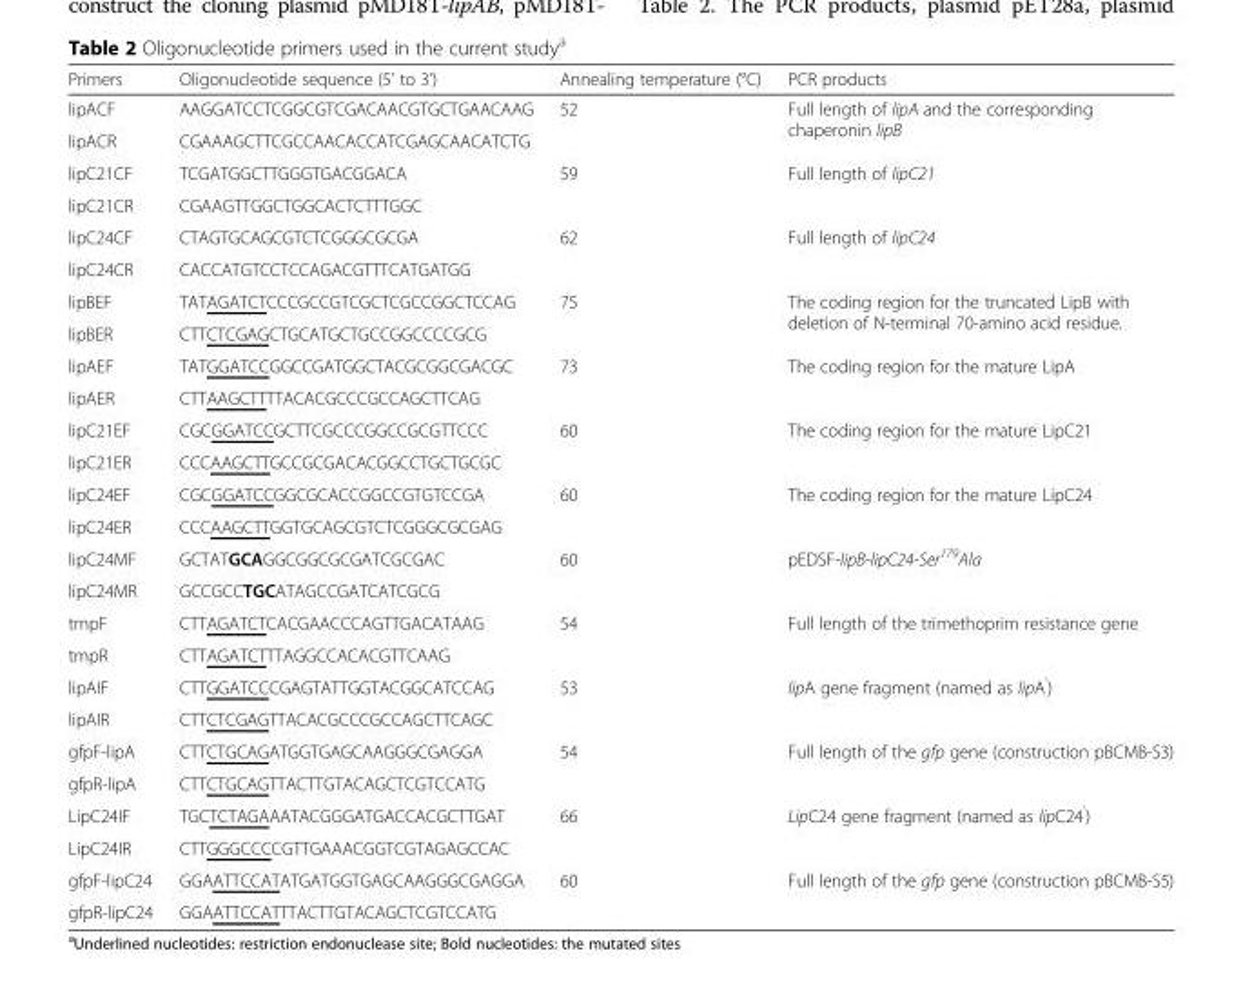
<table><thead><tr><td>Primers</td><td>Oligonucleotide sequence (5’ to 3’)</td><td>Annealing temperature (°C)</td><td>PCR products</td></tr></thead><tbody><tr><td>lipACF</td><td>AAGGATCCTCGGCGTCGACAACGTGCTGAACAAG</td><td rowspan="2">52</td><td rowspan="2">Full length of lipA and the corresponding chaperonin lipB</td></tr><tr><td>lipACR</td><td>CGAAAGCTTCGCCAACACCATCGAGCAACATCTG</td></tr><tr><td>lipC21CF</td><td>TCGATGGCTTGGGTGACGGACA</td><td rowspan="2">59</td><td rowspan="2">Full length of lipC21</td></tr><tr><td>lipC21CR</td><td>CGAAGTTGGCTGGCACTCTTTGGC</td></tr><tr><td>lipC24CF</td><td>CTAGTGCAGCGTCTCGGGCGCGA</td><td rowspan="2">62</td><td rowspan="2">Full length of lipC24</td></tr><tr><td>lipC24CR</td><td>CACCATGTCCTCCAGACGTTTCATGATGG</td></tr><tr><td>lipBEF</td><td>TATAGATCTCCCGCCGTCGCTCGCCGGCTCCAG</td><td rowspan="2">75</td><td rowspan="2">The coding region for the truncated LipB with deletion of N-terminal 70-amino acid residue.</td></tr><tr><td>lipBER</td><td>CTTCTCGAGCTGCATGCTGCCGGCCCCGCG</td></tr><tr><td>lipAEF</td><td>TATGGATCCGGCCGATGGCTACGCGGCGACGC</td><td rowspan="2">73</td><td rowspan="2">The coding region for the mature LipA</td></tr><tr><td>lipAER</td><td>CTTAAGCTTTTACACGCCCGCCAGCTTCAG</td></tr><tr><td>lipC21EF</td><td>CGCGGATCCGCTTCGCCCGGCCGCGTTCCC</td><td rowspan="2">60</td><td rowspan="2">The coding region for the mature LipC21</td></tr><tr><td>lipC21ER</td><td>CCCAAGCTTGCCGCGACACGGCCTGCTGCGC</td></tr><tr><td>lipC24EF</td><td>CGCGGATCCGGCGCACCGGCCGTGTCCGA</td><td rowspan="2">60</td><td rowspan="2">The coding region for the mature LipC24</td></tr><tr><td>lipC24ER</td><td>CCCAAGCTTGGTGCAGCGTCTCGGGCGCGAG</td></tr><tr><td>lipC24MF</td><td>GCTATGCAGGCGGCGCGATCGCGAC</td><td rowspan="2">60</td><td rowspan="2">pEDSF-lipB-lipC24-Ser<sup>179</sup>Ala</td></tr><tr><td>lipC24MR</td><td>GCCGCCTGCATAGCCGATCATCGCG</td></tr><tr><td>tmpF</td><td>CTTAGATCTCACGAACCCAGTTGACATAAG</td><td rowspan="2">54</td><td rowspan="2">Full length of the trimethoprim resistance gene</td></tr><tr><td>tmpR</td><td>CTTAGATCTTTAGGCCACACGTTCAAG</td></tr><tr><td>lipAIF</td><td>CTTGGATCCCGAGTATTGGTACGGCATCCAG</td><td rowspan="2">53</td><td rowspan="2">lipA gene fragment (named as lipA<sup>’</sup>)</td></tr><tr><td>lipAIR</td><td>CTTCTCGAGTTACACGCCCGCCAGCTTCAGC</td></tr><tr><td>gfpF-lipA</td><td>CTTCTGCAGATGGTGAGCAAGGGCGAGGA</td><td rowspan="2">54</td><td rowspan="2">Full length of the gfp gene (construction pBCMB-S3)</td></tr><tr><td>gfpR-lipA</td><td>CTTCTGCAGTTACTTGTACAGCTCGTCCATG</td></tr><tr><td>LipC24IF</td><td>TGCTCTAGAAATACGGGATGACCACGCTTGAT</td><td rowspan="2">66</td><td rowspan="2">LipC24 gene fragment (named as lipC24<sup>’</sup>)</td></tr><tr><td>LipC24IR</td><td>CTTGGGCCCCGTTGAAACGGTCGTAGAGCCAC</td></tr><tr><td>gfpF-lipC24</td><td>GGAATTCCATATGATGGTGAGCAAGGGCGAGGA</td><td rowspan="2">60</td><td rowspan="2">Full length of the gfp gene (construction pBCMB-S5)</td></tr><tr><td>gfpR-lipC24</td><td>GGAATTCCATTTACTTGTACAGCTCGTCCATG</td></tr></tbody></table>